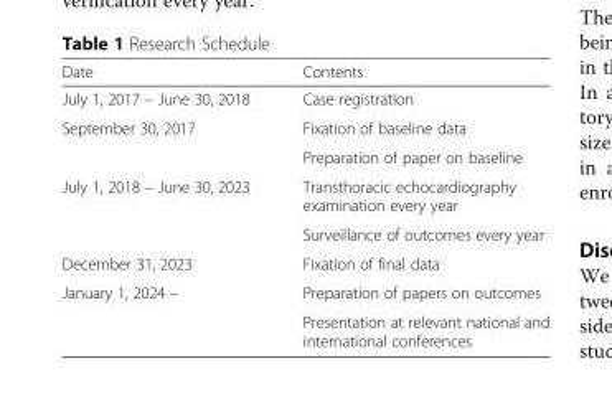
<table><thead><tr><td>Date</td><td>Contents</td></tr></thead><tbody><tr><td>July 1, 2017 – June 30, 2018</td><td>Case registration</td></tr><tr><td rowspan="2">September 30, 2017</td><td>Fixation of baseline data</td></tr><tr><td>Preparation of paper on baseline</td></tr><tr><td rowspan="2">July 1, 2018 – June 30, 2023</td><td>Transthoracic echocardiography examination every year</td></tr><tr><td>Surveillance of outcomes every year</td></tr><tr><td>December 31, 2023</td><td>Fixation of final data</td></tr><tr><td rowspan="2">January 1, 2024 –</td><td>Preparation of papers on outcomes</td></tr><tr><td>Presentation at relevant national and international conferences</td></tr></tbody></table>